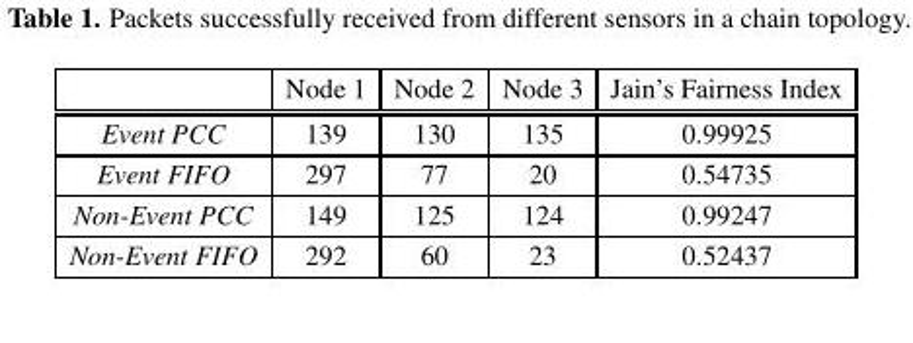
<table><thead><tr><td></td><td>Node 1</td><td>Node 2</td><td>Node 3</td><td>Jain’s Fairness Index</td></tr></thead><tbody><tr><td>Event PCC</td><td>139</td><td>130</td><td>135</td><td>0.99925</td></tr><tr><td>Event FIFO</td><td>297</td><td>77</td><td>20</td><td>0.54735</td></tr><tr><td>Non-Event PCC</td><td>149</td><td>125</td><td>124</td><td>0.99247</td></tr><tr><td>Non-Event FIFO</td><td>292</td><td>60</td><td>23</td><td>0.52437</td></tr></tbody></table>